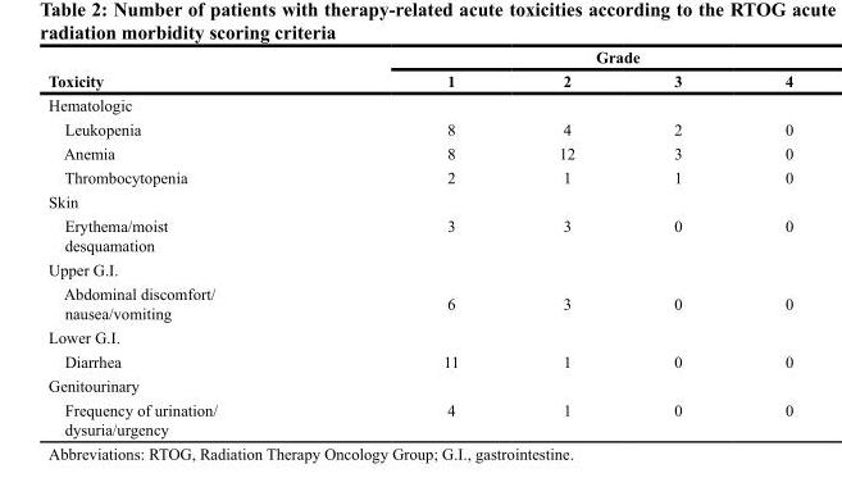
<table><thead><tr><td rowspan="2">Toxicity</td><td colspan="4">Grade</td></tr><tr><td>1</td><td>2</td><td>3</td><td>4</td></tr></thead><tbody><tr><td colspan="5">Hematologic</td></tr><tr><td>Leukopenia</td><td>8</td><td>4</td><td>2</td><td>0</td></tr><tr><td>Anemia</td><td>8</td><td>12</td><td>3</td><td>0</td></tr><tr><td>Thrombocytopenia</td><td>2</td><td>1</td><td>1</td><td>0</td></tr><tr><td colspan="5">Skin</td></tr><tr><td>Erythema/moist desquamation</td><td>3</td><td>3</td><td>0</td><td>0</td></tr><tr><td colspan="5">Upper G.I.</td></tr><tr><td>Abdominal discomfort/ nausea/vomiting</td><td>6</td><td>3</td><td>0</td><td>0</td></tr><tr><td colspan="5">Lower G.I.</td></tr><tr><td>Diarrhea</td><td>11</td><td>1</td><td>0</td><td>0</td></tr><tr><td colspan="5">Genitourinary</td></tr><tr><td>Frequency of urination/ dysuria/urgency</td><td>4</td><td>1</td><td>0</td><td>0</td></tr></tbody></table>